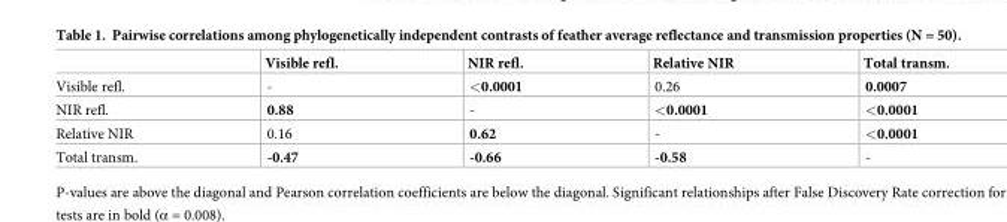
<table><thead><tr><td></td><td>Visible refl.</td><td>NIR refl.</td><td>Relative NIR</td><td>Total transm.</td></tr></thead><tbody><tr><td>Visible refl.</td><td>-</td><td>&lt;0.0001</td><td>0.26</td><td>0.0007</td></tr><tr><td>NIR refl.</td><td>0.88</td><td>-</td><td>&lt;0.0001</td><td>&lt;0.0001</td></tr><tr><td>Relative NIR</td><td>0.16</td><td>0.62</td><td>-</td><td>&lt;0.0001</td></tr><tr><td>Total transm.</td><td>-0.47</td><td>-0.66</td><td>-0.58</td><td>-</td></tr></tbody></table>